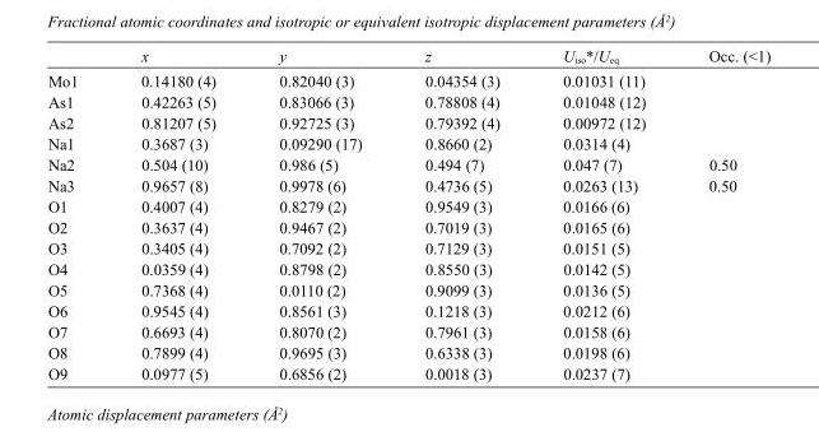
<table><thead><tr><td></td><td>x</td><td>y</td><td>z</td><td>U<sub>iso</sub>*/U<sub>eq</sub></td><td>Occ. (&lt;1)</td></tr></thead><tbody><tr><td>Mo1</td><td>0.14180 (4)</td><td>0.82040 (3)</td><td>0.04354 (3)</td><td>0.01031 (11)</td><td></td></tr><tr><td>As1</td><td>0.42263 (5)</td><td>0.83066 (3)</td><td>0.78808 (4)</td><td>0.01048 (12)</td><td></td></tr><tr><td>As2</td><td>0.81207 (5)</td><td>0.92725 (3)</td><td>0.79392 (4)</td><td>0.00972 (12)</td><td></td></tr><tr><td>Na1</td><td>0.3687 (3)</td><td>0.09290 (17)</td><td>0.8660 (2)</td><td>0.0314 (4)</td><td></td></tr><tr><td>Na2</td><td>0.504 (10)</td><td>0.986 (5)</td><td>0.494 (7)</td><td>0.047 (7)</td><td>0.50</td></tr><tr><td>Na3</td><td>0.9657 (8)</td><td>0.9978 (6)</td><td>0.4736 (5)</td><td>0.0263 (13)</td><td>0.50</td></tr><tr><td>O1</td><td>0.4007 (4)</td><td>0.8279 (2)</td><td>0.9549 (3)</td><td>0.0166 (6)</td><td></td></tr><tr><td>O2</td><td>0.3637 (4)</td><td>0.9467 (2)</td><td>0.7019 (3)</td><td>0.0165 (6)</td><td></td></tr><tr><td>O3</td><td>0.3405 (4)</td><td>0.7092 (2)</td><td>0.7129 (3)</td><td>0.0151 (5)</td><td></td></tr><tr><td>O4</td><td>0.0359 (4)</td><td>0.8798 (2)</td><td>0.8550 (3)</td><td>0.0142 (5)</td><td></td></tr><tr><td>O5</td><td>0.7368 (4)</td><td>0.0110 (2)</td><td>0.9099 (3)</td><td>0.0136 (5)</td><td></td></tr><tr><td>O6</td><td>0.9545 (4)</td><td>0.8561 (3)</td><td>0.1218 (3)</td><td>0.0212 (6)</td><td></td></tr><tr><td>O7</td><td>0.6693 (4)</td><td>0.8070 (2)</td><td>0.7961 (3)</td><td>0.0158 (6)</td><td></td></tr><tr><td>O8</td><td>0.7899 (4)</td><td>0.9695 (3)</td><td>0.6338 (3)</td><td>0.0198 (6)</td><td></td></tr><tr><td>O9</td><td>0.0977 (5)</td><td>0.6856 (2)</td><td>0.0018 (3)</td><td>0.0237 (7)</td><td></td></tr></tbody></table>